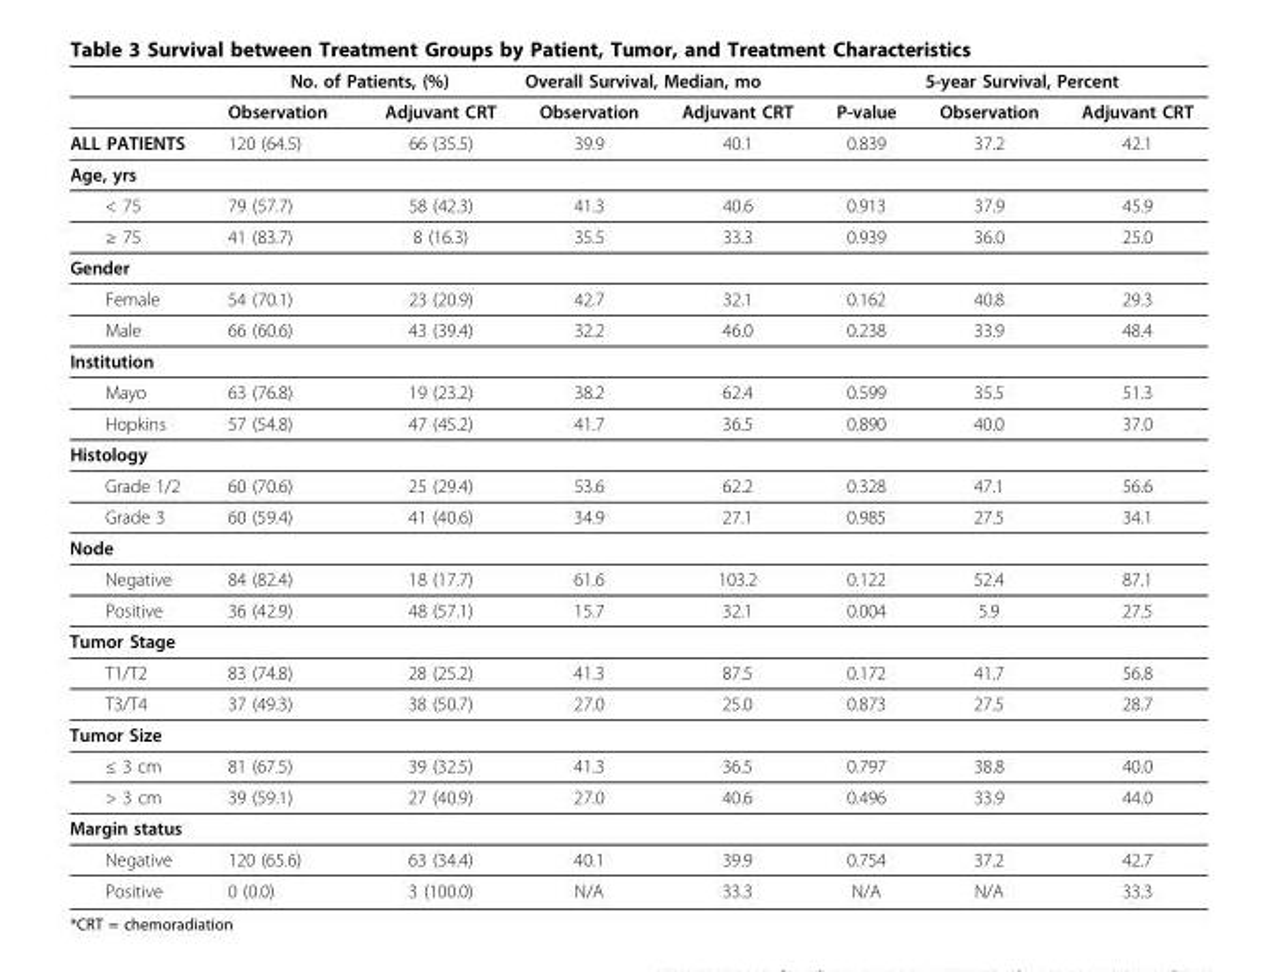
<table><thead><tr><td rowspan="2"></td><td colspan="2">No. of Patients, (%)</td><td colspan="3">Overall Survival, Median, mo</td><td colspan="2">5-year Survival, Percent</td></tr><tr><td>Observation</td><td>Adjuvant CRT</td><td>Observation</td><td>Adjuvant CRT</td><td>P-value</td><td>Observation</td><td>Adjuvant CRT</td></tr></thead><tbody><tr><td>ALL PATIENTS</td><td>120 (64.5)</td><td>66 (35.5)</td><td>39.9</td><td>40.1</td><td>0.839</td><td>37.2</td><td>42.1</td></tr><tr><td colspan="8">Age, yrs</td></tr><tr><td>&lt; 75</td><td>79 (57.7)</td><td>58 (42.3)</td><td>41.3</td><td>40.6</td><td>0.913</td><td>37.9</td><td>45.9</td></tr><tr><td>≥ 75</td><td>41 (83.7)</td><td>8 (16.3)</td><td>35.5</td><td>33.3</td><td>0.939</td><td>36.0</td><td>25.0</td></tr><tr><td colspan="8">Gender</td></tr><tr><td>Female</td><td>54 (70.1)</td><td>23 (20.9)</td><td>42.7</td><td>32.1</td><td>0.162</td><td>40.8</td><td>29.3</td></tr><tr><td>Male</td><td>66 (60.6)</td><td>43 (39.4)</td><td>32.2</td><td>46.0</td><td>0.238</td><td>33.9</td><td>48.4</td></tr><tr><td colspan="8">Institution</td></tr><tr><td>Mayo</td><td>63 (76.8)</td><td>19 (23.2)</td><td>38.2</td><td>62.4</td><td>0.599</td><td>35.5</td><td>51.3</td></tr><tr><td>Hopkins</td><td>57 (54.8)</td><td>47 (45.2)</td><td>41.7</td><td>36.5</td><td>0.890</td><td>40.0</td><td>37.0</td></tr><tr><td colspan="8">Histology</td></tr><tr><td>Grade 1/2</td><td>60 (70.6)</td><td>25 (29.4)</td><td>53.6</td><td>62.2</td><td>0.328</td><td>47.1</td><td>56.6</td></tr><tr><td>Grade 3</td><td>60 (59.4)</td><td>41 (40.6)</td><td>34.9</td><td>27.1</td><td>0.985</td><td>27.5</td><td>34.1</td></tr><tr><td colspan="8">Node</td></tr><tr><td>Negative</td><td>84 (82.4)</td><td>18 (17.7)</td><td>61.6</td><td>103.2</td><td>0.122</td><td>52.4</td><td>87.1</td></tr><tr><td>Positive</td><td>36 (42.9)</td><td>48 (57.1)</td><td>15.7</td><td>32.1</td><td>0.004</td><td>5.9</td><td>27.5</td></tr><tr><td colspan="8">Tumor Stage</td></tr><tr><td>T1/T2</td><td>83 (74.8)</td><td>28 (25.2)</td><td>41.3</td><td>87.5</td><td>0.172</td><td>41.7</td><td>56.8</td></tr><tr><td>T3/T4</td><td>37 (49.3)</td><td>38 (50.7)</td><td>27.0</td><td>25.0</td><td>0.873</td><td>27.5</td><td>28.7</td></tr><tr><td colspan="8">Tumor Size</td></tr><tr><td>≤ 3 cm</td><td>81 (67.5)</td><td>39 (32.5)</td><td>41.3</td><td>36.5</td><td>0.797</td><td>38.8</td><td>40.0</td></tr><tr><td>&gt; 3 cm</td><td>39 (59.1)</td><td>27 (40.9)</td><td>27.0</td><td>40.6</td><td>0.496</td><td>33.9</td><td>44.0</td></tr><tr><td colspan="8">Margin status</td></tr><tr><td>Negative</td><td>120 (65.6)</td><td>63 (34.4)</td><td>40.1</td><td>39.9</td><td>0.754</td><td>37.2</td><td>42.7</td></tr><tr><td>Positive</td><td>0 (0.0)</td><td>3 (100.0)</td><td>N/A</td><td>33.3</td><td>N/A</td><td>N/A</td><td>33.3</td></tr></tbody></table>